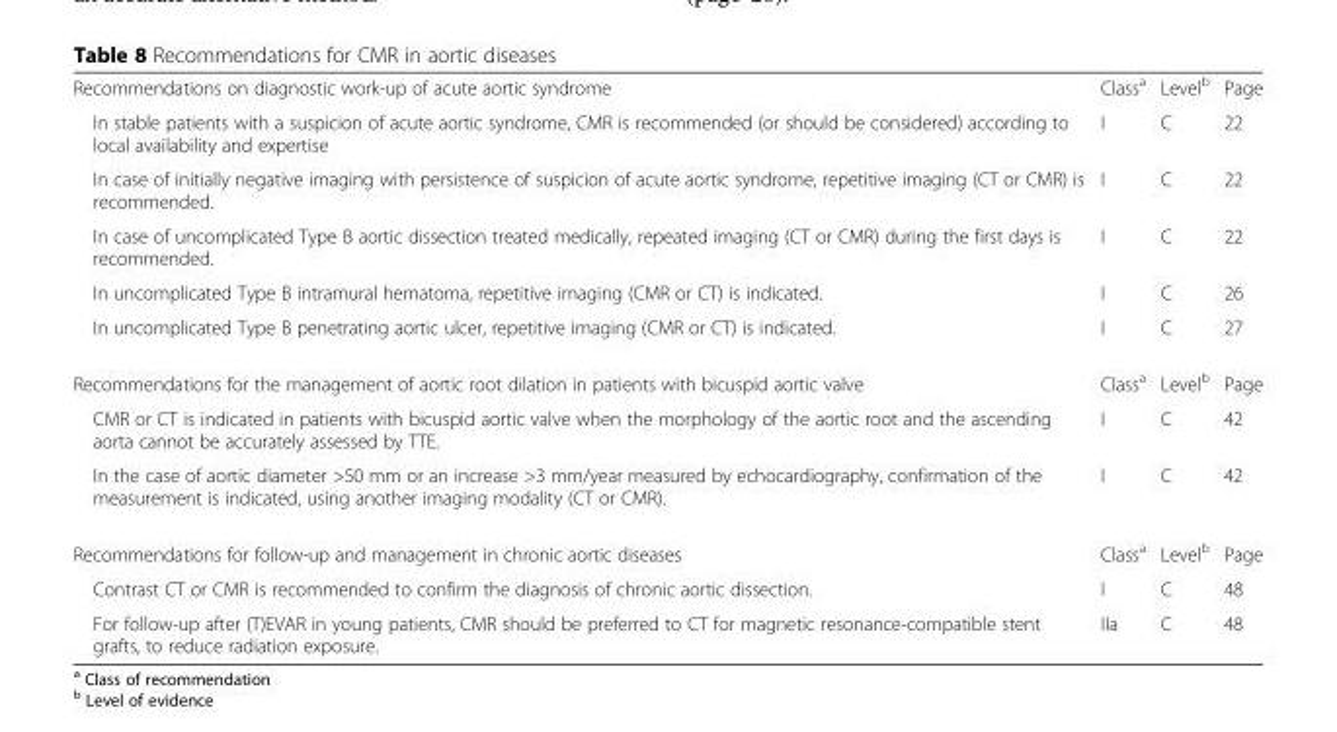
<table><tbody><tr><td>Recommendations on diagnostic work-up of acute aortic syndrome</td><td>Class<sup>a</sup></td><td>Level<sup>b</sup></td><td>Page</td></tr><tr><td>In stable patients with a suspicion of acute aortic syndrome, CMR is recommended (or should be considered) according to local availability and expertise</td><td>I</td><td>C</td><td>22</td></tr><tr><td>In case of initially negative imaging with persistence of suspicion of acute aortic syndrome, repetitive imaging (CT or CMR) is recommended.</td><td>I</td><td>C</td><td>22</td></tr><tr><td>In case of uncomplicated Type B aortic dissection treated medically, repeated imaging (CT or CMR) during the first days is recommended.</td><td>I</td><td>C</td><td>22</td></tr><tr><td>In uncomplicated Type B intramural hematoma, repetitive imaging (CMR or CT) is indicated.</td><td>I</td><td>C</td><td>26</td></tr><tr><td>In uncomplicated Type B penetrating aortic ulcer, repetitive imaging (CMR or CT) is indicated.</td><td>I</td><td>C</td><td>27</td></tr><tr><td>Recommendations for the management of aortic root dilation in patients with bicuspid aortic valve</td><td>Class<sup>a</sup></td><td>Level<sup>b</sup></td><td>Page</td></tr><tr><td>CMR or CT is indicated in patients with bicuspid aortic valve when the morphology of the aortic root and the ascending aorta cannot be accurately assessed by TTE.</td><td>I</td><td>C</td><td>42</td></tr><tr><td>In the case of aortic diameter &gt;50 mm or an increase &gt;3 mm/year measured by echocardiography, confirmation of the measurement is indicated, using another imaging modality (CT or CMR).</td><td>I</td><td>C</td><td>42</td></tr><tr><td>Recommendations for follow-up and management in chronic aortic diseases</td><td>Class<sup>a</sup></td><td>Level<sup>b</sup></td><td>Page</td></tr><tr><td>Contrast CT or CMR is recommended to confirm the diagnosis of chronic aortic dissection.</td><td>I</td><td>C</td><td>48</td></tr><tr><td>For follow-up after (T)EVAR in young patients, CMR should be preferred to CT for magnetic resonance-compatible stent grafts, to reduce radiation exposure.</td><td>IIa</td><td>C</td><td>48</td></tr></tbody></table>